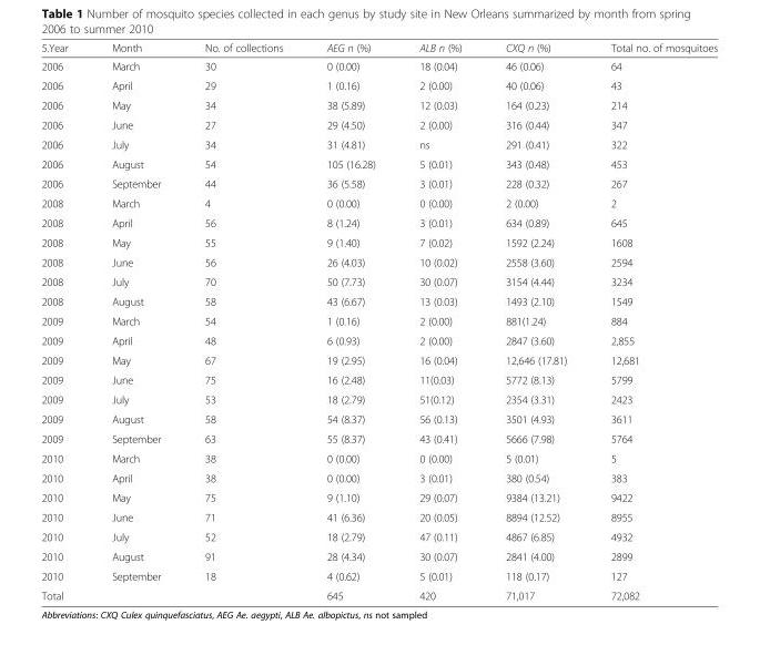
<table><thead><tr><td>5.Year</td><td>Month</td><td>No. of collections</td><td>AEG n (%)</td><td>ALB n (%)</td><td>CXQ n (%)</td><td>Total no. of mosquitoes</td></tr></thead><tbody><tr><td>2006</td><td>March</td><td>30</td><td>0 (0.00)</td><td>18 (0.04)</td><td>46 (0.06)</td><td>64</td></tr><tr><td>2006</td><td>April</td><td>29</td><td>1 (0.16)</td><td>2 (0.00)</td><td>40 (0.06)</td><td>43</td></tr><tr><td>2006</td><td>May</td><td>34</td><td>38 (5.89)</td><td>12 (0.03)</td><td>164 (0.23)</td><td>214</td></tr><tr><td>2006</td><td>June</td><td>27</td><td>29 (4.50)</td><td>2 (0.00)</td><td>316 (0.44)</td><td>347</td></tr><tr><td>2006</td><td>July</td><td>34</td><td>31 (4.81)</td><td>ns</td><td>291 (0.41)</td><td>322</td></tr><tr><td>2006</td><td>August</td><td>54</td><td>105 (16.28)</td><td>5 (0.01)</td><td>343 (0.48)</td><td>453</td></tr><tr><td>2006</td><td>September</td><td>44</td><td>36 (5.58)</td><td>3 (0.01)</td><td>228 (0.32)</td><td>267</td></tr><tr><td>2008</td><td>March</td><td>4</td><td>0 (0.00)</td><td>0 (0.00)</td><td>2 (0.00)</td><td>2</td></tr><tr><td>2008</td><td>April</td><td>56</td><td>8 (1.24)</td><td>3 (0.01)</td><td>634 (0.89)</td><td>645</td></tr><tr><td>2008</td><td>May</td><td>55</td><td>9 (1.40)</td><td>7 (0.02)</td><td>1592 (2.24)</td><td>1608</td></tr><tr><td>2008</td><td>June</td><td>56</td><td>26 (4.03)</td><td>10 (0.02)</td><td>2558 (3.60)</td><td>2594</td></tr><tr><td>2008</td><td>July</td><td>70</td><td>50 (7.73)</td><td>30 (0.07)</td><td>3154 (4.44)</td><td>3234</td></tr><tr><td>2008</td><td>August</td><td>58</td><td>43 (6.67)</td><td>13 (0.03)</td><td>1493 (2.10)</td><td>1549</td></tr><tr><td>2009</td><td>March</td><td>54</td><td>1 (0.16)</td><td>2 (0.00)</td><td>881(1.24)</td><td>884</td></tr><tr><td>2009</td><td>April</td><td>48</td><td>6 (0.93)</td><td>2 (0.00)</td><td>2847 (3.60)</td><td>2,855</td></tr><tr><td>2009</td><td>May</td><td>67</td><td>19 (2.95)</td><td>16 (0.04)</td><td>12,646 (17.81)</td><td>12,681</td></tr><tr><td>2009</td><td>June</td><td>75</td><td>16 (2.48)</td><td>11(0.03)</td><td>5772 (8.13)</td><td>5799</td></tr><tr><td>2009</td><td>July</td><td>53</td><td>18 (2.79)</td><td>51(0.12)</td><td>2354 (3.31)</td><td>2423</td></tr><tr><td>2009</td><td>August</td><td>58</td><td>54 (8.37)</td><td>56 (0.13)</td><td>3501 (4.93)</td><td>3611</td></tr><tr><td>2009</td><td>September</td><td>63</td><td>55 (8.37)</td><td>43 (0.41)</td><td>5666 (7.98)</td><td>5764</td></tr><tr><td>2010</td><td>March</td><td>38</td><td>0 (0.00)</td><td>0 (0.00)</td><td>5 (0.01)</td><td>5</td></tr><tr><td>2010</td><td>April</td><td>38</td><td>0 (0.00)</td><td>3 (0.01)</td><td>380 (0.54)</td><td>383</td></tr><tr><td>2010</td><td>May</td><td>75</td><td>9 (1.10)</td><td>29 (0.07)</td><td>9384 (13.21)</td><td>9422</td></tr><tr><td>2010</td><td>June</td><td>71</td><td>41 (6.36)</td><td>20 (0.05)</td><td>8894 (12.52)</td><td>8955</td></tr><tr><td>2010</td><td>July</td><td>52</td><td>18 (2.79)</td><td>47 (0.11)</td><td>4867 (6.85)</td><td>4932</td></tr><tr><td>2010</td><td>August</td><td>91</td><td>28 (4.34)</td><td>30 (0.07)</td><td>2841 (4.00)</td><td>2899</td></tr><tr><td>2010</td><td>September</td><td>18</td><td>4 (0.62)</td><td>5 (0.01)</td><td>118 (0.17)</td><td>127</td></tr><tr><td colspan="3">Total</td><td>645</td><td>420</td><td>71,017</td><td>72,082</td></tr></tbody></table>